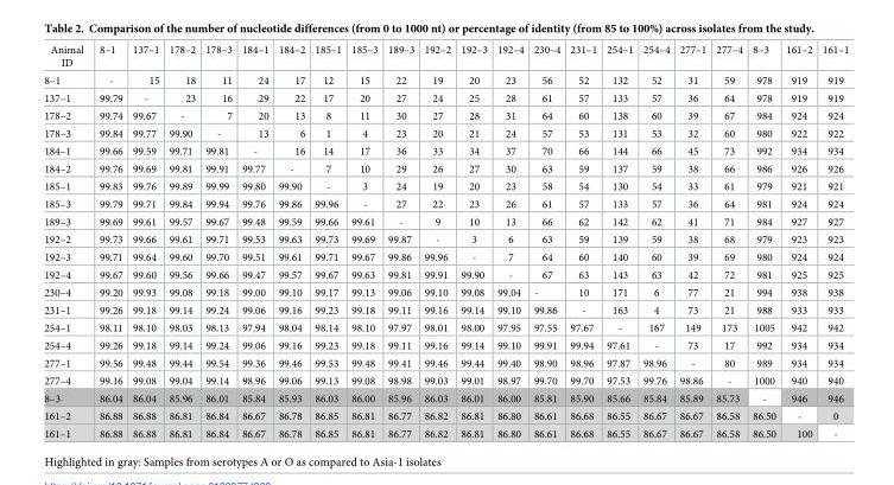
<table><tbody><tr><td>Animal ID</td><td>8–1</td><td>137–1</td><td>178–2</td><td>178–3</td><td>184–1</td><td>184–2</td><td>185–1</td><td>185–3</td><td>189–3</td><td>192–2</td><td>192–3</td><td>192–4</td><td>230–4</td><td>231–1</td><td>254–1</td><td>254–4</td><td>277–1</td><td>277–4</td><td>8–3</td><td>161–2</td><td>161–1</td></tr><tr><td>8–1</td><td>-</td><td>15</td><td>18</td><td>11</td><td>24</td><td>17</td><td>12</td><td>15</td><td>22</td><td>19</td><td>20</td><td>23</td><td>56</td><td>52</td><td>132</td><td>52</td><td>31</td><td>59</td><td>978</td><td>919</td><td>919</td></tr><tr><td>137–1</td><td>99.79</td><td>-</td><td>23</td><td>16</td><td>29</td><td>22</td><td>17</td><td>20</td><td>27</td><td>24</td><td>25</td><td>28</td><td>61</td><td>57</td><td>133</td><td>57</td><td>36</td><td>64</td><td>978</td><td>919</td><td>919</td></tr><tr><td>178–2</td><td>99.74</td><td>99.67</td><td>-</td><td>7</td><td>20</td><td>13</td><td>8</td><td>11</td><td>30</td><td>27</td><td>28</td><td>31</td><td>64</td><td>60</td><td>138</td><td>60</td><td>39</td><td>67</td><td>984</td><td>924</td><td>924</td></tr><tr><td>178–3</td><td>99.84</td><td>99.77</td><td>99.90</td><td>-</td><td>13</td><td>6</td><td>1</td><td>4</td><td>23</td><td>20</td><td>21</td><td>24</td><td>57</td><td>53</td><td>131</td><td>53</td><td>32</td><td>60</td><td>980</td><td>922</td><td>922</td></tr><tr><td>184–1</td><td>99.66</td><td>99.59</td><td>99.71</td><td>99.81</td><td>-</td><td>16</td><td>14</td><td>17</td><td>36</td><td>33</td><td>34</td><td>37</td><td>70</td><td>66</td><td>144</td><td>66</td><td>45</td><td>73</td><td>992</td><td>934</td><td>934</td></tr><tr><td>184–2</td><td>99.76</td><td>99.69</td><td>99.81</td><td>99.91</td><td>99.77</td><td>-</td><td>7</td><td>10</td><td>29</td><td>26</td><td>27</td><td>30</td><td>63</td><td>59</td><td>137</td><td>59</td><td>38</td><td>66</td><td>986</td><td>926</td><td>926</td></tr><tr><td>185–1</td><td>99.83</td><td>99.76</td><td>99.89</td><td>99.99</td><td>99.80</td><td>99.90</td><td>-</td><td>3</td><td>24</td><td>19</td><td>20</td><td>23</td><td>58</td><td>54</td><td>130</td><td>54</td><td>33</td><td>61</td><td>979</td><td>921</td><td>921</td></tr><tr><td>185–3</td><td>99.79</td><td>99.71</td><td>99.84</td><td>99.94</td><td>99.76</td><td>99.86</td><td>99.96</td><td>-</td><td>27</td><td>22</td><td>23</td><td>26</td><td>61</td><td>57</td><td>133</td><td>57</td><td>36</td><td>64</td><td>981</td><td>924</td><td>924</td></tr><tr><td>189–3</td><td>99.69</td><td>99.61</td><td>99.57</td><td>99.67</td><td>99.48</td><td>99.59</td><td>99.66</td><td>99.61</td><td>-</td><td>9</td><td>10</td><td>13</td><td>66</td><td>62</td><td>142</td><td>62</td><td>41</td><td>71</td><td>984</td><td>927</td><td>927</td></tr><tr><td>192–2</td><td>99.73</td><td>99.66</td><td>99.61</td><td>99.71</td><td>99.53</td><td>99.63</td><td>99.73</td><td>99.69</td><td>99.87</td><td>-</td><td>3</td><td>6</td><td>63</td><td>59</td><td>139</td><td>59</td><td>38</td><td>68</td><td>979</td><td>923</td><td>923</td></tr><tr><td>192–3</td><td>99.71</td><td>99.64</td><td>99.60</td><td>99.70</td><td>99.51</td><td>99.61</td><td>99.71</td><td>99.67</td><td>99.86</td><td>99.96</td><td>-</td><td>7</td><td>64</td><td>60</td><td>140</td><td>60</td><td>39</td><td>69</td><td>980</td><td>924</td><td>924</td></tr><tr><td>192–4</td><td>99.67</td><td>99.60</td><td>99.56</td><td>99.66</td><td>99.47</td><td>99.57</td><td>99.67</td><td>99.63</td><td>99.81</td><td>99.91</td><td>99.90</td><td>-</td><td>67</td><td>63</td><td>143</td><td>63</td><td>42</td><td>72</td><td>981</td><td>925</td><td>925</td></tr><tr><td>230–4</td><td>99.20</td><td>99.93</td><td>99.08</td><td>99.18</td><td>99.00</td><td>99.10</td><td>99.17</td><td>99.13</td><td>99.06</td><td>99.10</td><td>99.08</td><td>99.04</td><td>-</td><td>10</td><td>171</td><td>6</td><td>77</td><td>21</td><td>994</td><td>938</td><td>938</td></tr><tr><td>231–1</td><td>99.26</td><td>99.18</td><td>99.14</td><td>99.24</td><td>99.06</td><td>99.16</td><td>99.23</td><td>99.18</td><td>99.11</td><td>99.16</td><td>99.14</td><td>99.10</td><td>99.86</td><td>-</td><td>163</td><td>4</td><td>73</td><td>21</td><td>988</td><td>933</td><td>933</td></tr><tr><td>254–1</td><td>98.11</td><td>98.10</td><td>98.03</td><td>98.13</td><td>97.94</td><td>98.04</td><td>98.14</td><td>98.10</td><td>97.97</td><td>98.01</td><td>98.00</td><td>97.95</td><td>97.55</td><td>97.67</td><td>-</td><td>167</td><td>149</td><td>173</td><td>1005</td><td>942</td><td>942</td></tr><tr><td>254–4</td><td>99.26</td><td>99.18</td><td>99.14</td><td>99.24</td><td>99.06</td><td>99.16</td><td>99.23</td><td>99.18</td><td>99.11</td><td>99.16</td><td>99.14</td><td>99.10</td><td>99.91</td><td>99.94</td><td>97.61</td><td>-</td><td>73</td><td>17</td><td>992</td><td>934</td><td>934</td></tr><tr><td>277–1</td><td>99.56</td><td>99.48</td><td>99.44</td><td>99.54</td><td>99.36</td><td>99.46</td><td>99.53</td><td>99.48</td><td>99.41</td><td>99.46</td><td>99.44</td><td>99.40</td><td>98.90</td><td>98.96</td><td>97.87</td><td>98.96</td><td>-</td><td>80</td><td>989</td><td>934</td><td>934</td></tr><tr><td>277–4</td><td>99.16</td><td>99.08</td><td>99.04</td><td>99.14</td><td>98.96</td><td>99.06</td><td>99.13</td><td>99.08</td><td>98.98</td><td>99.03</td><td>99.01</td><td>98.97</td><td>99.70</td><td>99.70</td><td>97.53</td><td>99.76</td><td>98.86</td><td>-</td><td>1000</td><td>940</td><td>940</td></tr><tr><td>8–3</td><td>86.04</td><td>86.04</td><td>85.96</td><td>86.01</td><td>85.84</td><td>85.93</td><td>86.03</td><td>86.00</td><td>85.96</td><td>86.03</td><td>86.01</td><td>86.00</td><td>85.81</td><td>85.90</td><td>85.66</td><td>85.84</td><td>85.89</td><td>85.73</td><td>-</td><td>946</td><td>946</td></tr><tr><td>161–2</td><td>86.88</td><td>86.88</td><td>86.81</td><td>86.84</td><td>86.67</td><td>86.78</td><td>86.85</td><td>86.81</td><td>86.77</td><td>86.82</td><td>86.81</td><td>86.80</td><td>86.61</td><td>86.68</td><td>86.55</td><td>86.67</td><td>86.67</td><td>86.58</td><td>86.50</td><td>-</td><td>0</td></tr><tr><td>161–1</td><td>86.88</td><td>86.88</td><td>86.81</td><td>86.84</td><td>86.67</td><td>86.78</td><td>86.85</td><td>86.81</td><td>86.77</td><td>86.82</td><td>86.81</td><td>86.80</td><td>86.61</td><td>86.68</td><td>86.55</td><td>86.67</td><td>86.67</td><td>86.58</td><td>86.50</td><td>100</td><td>-</td></tr></tbody></table>